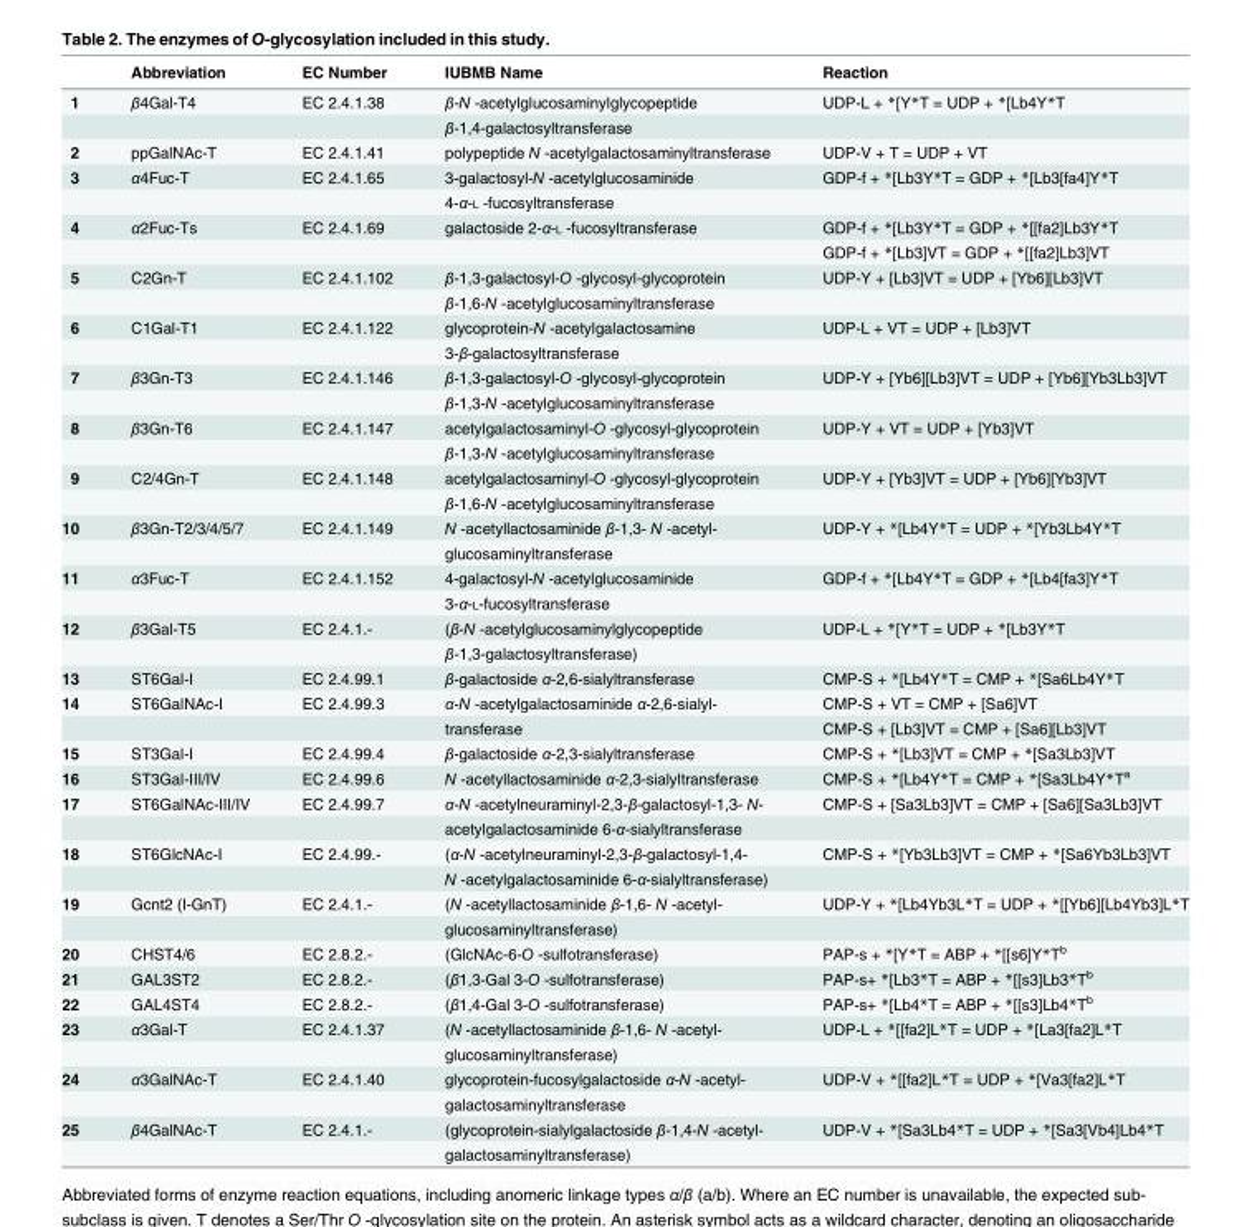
<table><thead><tr><td></td><td>Abbreviation</td><td>EC Number</td><td>IUBMB Name</td><td>Reaction</td></tr></thead><tbody><tr><td rowspan="2">1</td><td>β4Gal-T4</td><td>EC 2.4.1.38</td><td>β-N -acetylglucosaminylglycopeptide</td><td>UDP-L + *[Y*T = UDP + *[Lb4Y*T</td></tr><tr><td></td><td></td><td>β-1,4-galactosyltransferase</td><td></td></tr><tr><td>2</td><td>ppGalNAc-T</td><td>EC 2.4.1.41</td><td>polypeptide N -acetylgalactosaminyltransferase</td><td>UDP-V + T = UDP + VT</td></tr><tr><td rowspan="2">3</td><td>α4Fuc-T</td><td>EC 2.4.1.65</td><td>3-galactosyl-N -acetylglucosaminide</td><td>GDP-f + *[Lb3Y*T = GDP + *[Lb3[fa4]Y*T</td></tr><tr><td></td><td></td><td>4-α-L -fucosyltransferase</td><td></td></tr><tr><td rowspan="2">4</td><td>α2Fuc-Ts</td><td>EC 2.4.1.69</td><td>galactoside 2-α-L -fucosyltransferase</td><td>GDP-f + *[Lb3Y*T = GDP + *[[fa2]Lb3Y*T</td></tr><tr><td></td><td></td><td></td><td>GDP-f + *[Lb3]VT = GDP + *[[fa2]Lb3]VT</td></tr><tr><td rowspan="2">5</td><td>C2Gn-T</td><td>EC 2.4.1.102</td><td>β-1,3-galactosyl-O -glycosyl-glycoprotein</td><td>UDP-Y + [Lb3]VT = UDP + [Yb6][Lb3]VT</td></tr><tr><td></td><td></td><td>β-1,6-N -acetylglucosaminyltransferase</td><td></td></tr><tr><td rowspan="2">6</td><td>C1Gal-T1</td><td>EC 2.4.1.122</td><td>glycoprotein-N -acetylgalactosamine</td><td>UDP-L + VT = UDP + [Lb3]VT</td></tr><tr><td></td><td></td><td>3-β-galactosyltransferase</td><td></td></tr><tr><td rowspan="2">7</td><td>β3Gn-T3</td><td>EC 2.4.1.146</td><td>β-1,3-galactosyl-O -glycosyl-glycoprotein</td><td>UDP-Y + [Yb6][Lb3]VT = UDP + [Yb6][Yb3Lb3]VT</td></tr><tr><td></td><td></td><td>β-1,3-N -acetylglucosaminyltransferase</td><td></td></tr><tr><td rowspan="2">8</td><td>β3Gn-T6</td><td>EC 2.4.1.147</td><td>acetylgalactosaminyl-O -glycosyl-glycoprotein</td><td>UDP-Y + VT = UDP + [Yb3]VT</td></tr><tr><td></td><td></td><td>β-1,3-N -acetylglucosaminyltransferase</td><td></td></tr><tr><td rowspan="2">9</td><td>C2/4Gn-T</td><td>EC 2.4.1.148</td><td>acetylgalactosaminyl-O -glycosyl-glycoprotein</td><td>UDP-Y + [Yb3]VT = UDP + [Yb6][Yb3]VT</td></tr><tr><td></td><td></td><td>β-1,6-N -acetylglucosaminyltransferase</td><td></td></tr><tr><td rowspan="2">10</td><td>β3Gn-T2/3/4/5/7</td><td>EC 2.4.1.149</td><td>N -acetyllactosaminide β-1,3- N -acetyl-</td><td>UDP-Y + *[Lb4Y*T = UDP + *[Yb3Lb4Y*T</td></tr><tr><td></td><td></td><td>glucosaminyltransferase</td><td></td></tr><tr><td rowspan="2">11</td><td>α3Fuc-T</td><td>EC 2.4.1.152</td><td>4-galactosyl-N -acetylglucosaminide</td><td>GDP-f + *[Lb4Y*T = GDP + *[Lb4[fa3]Y*T</td></tr><tr><td></td><td></td><td>3-α-L-fucosyltransferase</td><td></td></tr><tr><td rowspan="2">12</td><td>β3Gal-T5</td><td>EC 2.4.1.-</td><td>(β-N -acetylglucosaminylglycopeptide</td><td>UDP-L + *[Y*T = UDP + *[Lb3Y*T</td></tr><tr><td></td><td></td><td>β-1,3-galactosyltransferase)</td><td></td></tr><tr><td>13</td><td>ST6Gal-I</td><td>EC 2.4.99.1</td><td>β-galactoside α-2,6-sialyltransferase</td><td>CMP-S + *[Lb4Y*T = CMP + *[Sa6Lb4Y*T</td></tr><tr><td rowspan="2">14</td><td>ST6GalNAc-I</td><td>EC 2.4.99.3</td><td>α-N -acetylgalactosaminide α-2,6-sialyl-</td><td>CMP-S + VT = CMP + [Sa6]VT</td></tr><tr><td></td><td></td><td>transferase</td><td>CMP-S + [Lb3]VT = CMP + [Sa6][Lb3]VT</td></tr><tr><td>15</td><td>ST3Gal-I</td><td>EC 2.4.99.4</td><td>β-galactoside α-2,3-sialyltransferase</td><td>CMP-S + *[Lb3]VT = CMP + *[Sa3Lb3]VT</td></tr><tr><td>16</td><td>ST3Gal-III/IV</td><td>EC 2.4.99.6</td><td>N -acetyllactosaminide α-2,3-sialyltransferase</td><td>CMP-S + *[Lb4Y*T = CMP + *[Sa3Lb4Y*T<sup>a</sup></td></tr><tr><td rowspan="2">17</td><td>ST6GalNAc-III/IV</td><td>EC 2.4.99.7</td><td>α-N -acetylneuraminyl-2,3-β-galactosyl-1,3- N-</td><td>CMP-S + [Sa3Lb3]VT = CMP + [Sa6][Sa3Lb3]VT</td></tr><tr><td></td><td></td><td>acetylgalactosaminide 6-α-sialyltransferase</td><td></td></tr><tr><td rowspan="2">18</td><td>ST6GlcNAc-I</td><td>EC 2.4.99.-</td><td>(α-N -acetylneuraminyl-2,3-β-galactosyl-1,4-</td><td>CMP-S + *[Yb3Lb3]VT = CMP + *[Sa6Yb3Lb3]VT</td></tr><tr><td></td><td></td><td>N -acetylgalactosaminide 6-α-sialyltransferase)</td><td></td></tr><tr><td rowspan="2">19</td><td>Gcnt2 (I-GnT)</td><td>EC 2.4.1.-</td><td>(N -acetyllactosaminide β-1,6- N -acetyl-</td><td>UDP-Y + *[Lb4Yb3L*T = UDP + *[[Yb6][Lb4Yb3]L*T</td></tr><tr><td></td><td></td><td>glucosaminyltransferase)</td><td></td></tr><tr><td>20</td><td>CHST4/6</td><td>EC 2.8.2.-</td><td>(GlcNAc-6-O -sulfotransferase)</td><td>PAP-s + *[Y*T = ABP + *[[s6]Y*T<sup>b</sup></td></tr><tr><td>21</td><td>GAL3ST2</td><td>EC 2.8.2.-</td><td>(β1,3-Gal 3-O -sulfotransferase)</td><td>PAP-s+ *[Lb3*T = ABP + *[[s3]Lb3*T<sup>b</sup></td></tr><tr><td>22</td><td>GAL4ST4</td><td>EC 2.8.2.-</td><td>(β1,4-Gal 3-O -sulfotransferase)</td><td>PAP-s+ *[Lb4*T = ABP + *[[s3]Lb4*T<sup>b</sup></td></tr><tr><td rowspan="2">23</td><td>α3Gal-T</td><td>EC 2.4.1.37</td><td>(N -acetyllactosaminide β-1,6- N -acetyl-</td><td>UDP-L + *[[fa2]L*T = UDP + *[La3[fa2]L*T</td></tr><tr><td></td><td></td><td>glucosaminyltransferase)</td><td></td></tr><tr><td rowspan="2">24</td><td>α3GalNAc-T</td><td>EC 2.4.1.40</td><td>glycoprotein-fucosylgalactoside α-N -acetyl-</td><td>UDP-V + *[[fa2]L*T = UDP + *[Va3[fa2]L*T</td></tr><tr><td></td><td></td><td>galactosaminyltransferase</td><td></td></tr><tr><td rowspan="2">25</td><td>β4GalNAc-T</td><td>EC 2.4.1.-</td><td>(glycoprotein-sialylgalactoside β-1,4-N -acetyl-</td><td>UDP-V + *[Sa3Lb4*T = UDP + *[Sa3[Vb4]Lb4*T</td></tr><tr><td></td><td></td><td>galactosaminyltransferase)</td><td></td></tr></tbody></table>